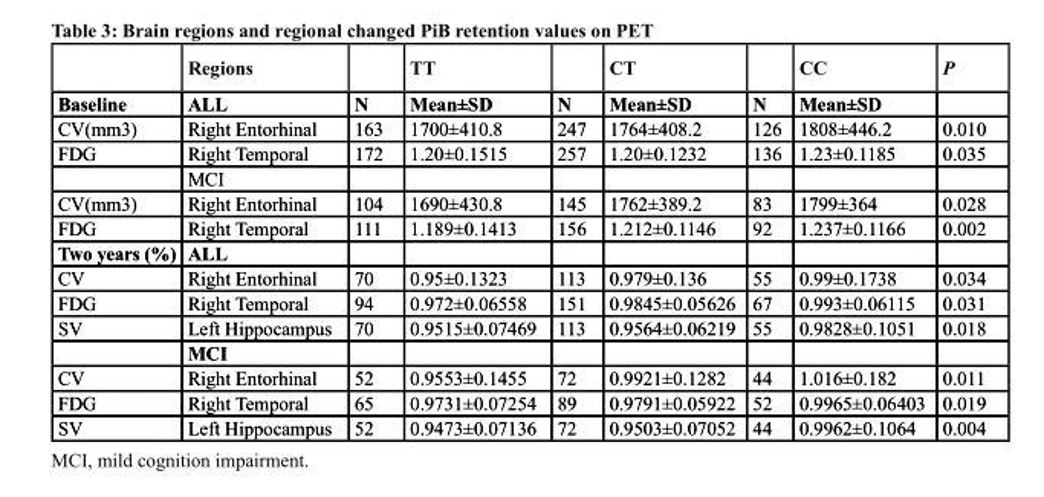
<table><thead><tr><td></td><td>regions</td><td></td><td>tt</td><td></td><td>ct</td><td></td><td>cc</td><td>P</td></tr></thead><tbody><tr><td>baseline</td><td>ALL</td><td>N</td><td>Mean±sD</td><td>N</td><td>Mean±sD</td><td>N</td><td>Mean±sD</td><td></td></tr><tr><td>CV(mm3)</td><td>Right Entorhinal</td><td>163</td><td>1700±410.8</td><td>247</td><td>1764±408.2</td><td>126</td><td>1808±446.2</td><td>0.010</td></tr><tr><td rowspan="2">FDG</td><td>Right Temporal</td><td>172</td><td>1.20±0.1515</td><td>257</td><td>1.20±0.1232</td><td>136</td><td>1.23±0.1185</td><td>0.035</td></tr><tr><td>MCI</td><td></td><td></td><td></td><td></td><td></td><td></td><td></td></tr><tr><td>CV(mm3)</td><td>Right Entorhinal</td><td>104</td><td>1690±430.8</td><td>145</td><td>1762±389.2</td><td>83</td><td>1799±364</td><td>0.028</td></tr><tr><td>FDG</td><td>Right Temporal</td><td>111</td><td>1.189±0.1413</td><td>156</td><td>1.212±0.1146</td><td>92</td><td>1.237±0.1166</td><td>0.002</td></tr><tr><td>two years (%)</td><td>ALL</td><td></td><td></td><td></td><td></td><td></td><td></td><td></td></tr><tr><td>CV</td><td>Right Entorhinal</td><td>70</td><td>0.95±0.1323</td><td>113</td><td>0.979±0.136</td><td>55</td><td>0.99±0.1738</td><td>0.034</td></tr><tr><td>FDG</td><td>Right Temporal</td><td>94</td><td>0.972±0.06558</td><td>151</td><td>0.9845±0.05626</td><td>67</td><td>0.993±0.06115</td><td>0.031</td></tr><tr><td rowspan="2">SV</td><td>Left Hippocampus</td><td>70</td><td>0.9515±0.07469</td><td>113</td><td>0.9564±0.06219</td><td>55</td><td>0.9828±0.1051</td><td>0.018</td></tr><tr><td>McI</td><td></td><td></td><td></td><td></td><td></td><td></td><td></td></tr><tr><td>CV</td><td>Right Entorhinal</td><td>52</td><td>0.9553±0.1455</td><td>72</td><td>0.9921±0.1282</td><td>44</td><td>1.016±0.182</td><td>0.011</td></tr><tr><td>FDG</td><td>Right Temporal</td><td>65</td><td>0.9731±0.07254</td><td>89</td><td>0.9791±0.05922</td><td>52</td><td>0.9965±0.06403</td><td>0.019</td></tr><tr><td>SV</td><td>Left Hippocampus</td><td>52</td><td>0.9473±0.07136</td><td>72</td><td>0.9503±0.07052</td><td>44</td><td>0.9962±0.1064</td><td>0.004</td></tr></tbody></table>